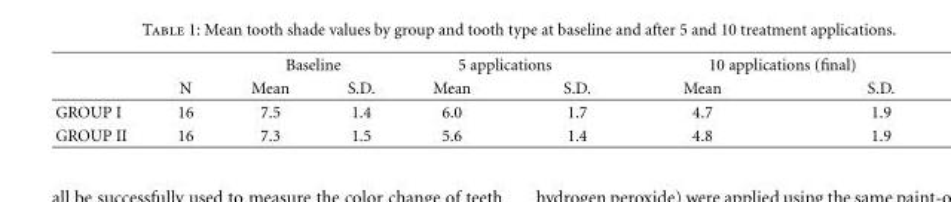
<table><thead><tr><td rowspan="2"></td><td rowspan="2">N</td><td colspan="2">Baseline</td><td colspan="2">5 applications</td><td colspan="2">10 applications (final)</td></tr><tr><td>Mean</td><td>S.D.</td><td>Mean</td><td>S.D.</td><td>Mean</td><td>S.D.</td></tr></thead><tbody><tr><td>GROUP I</td><td>16</td><td>7.5</td><td>1.4</td><td>6.0</td><td>1.7</td><td>4.7</td><td>1.9</td></tr><tr><td>GROUP II</td><td>16</td><td>7.3</td><td>1.5</td><td>5.6</td><td>1.4</td><td>4.8</td><td>1.9</td></tr></tbody></table>